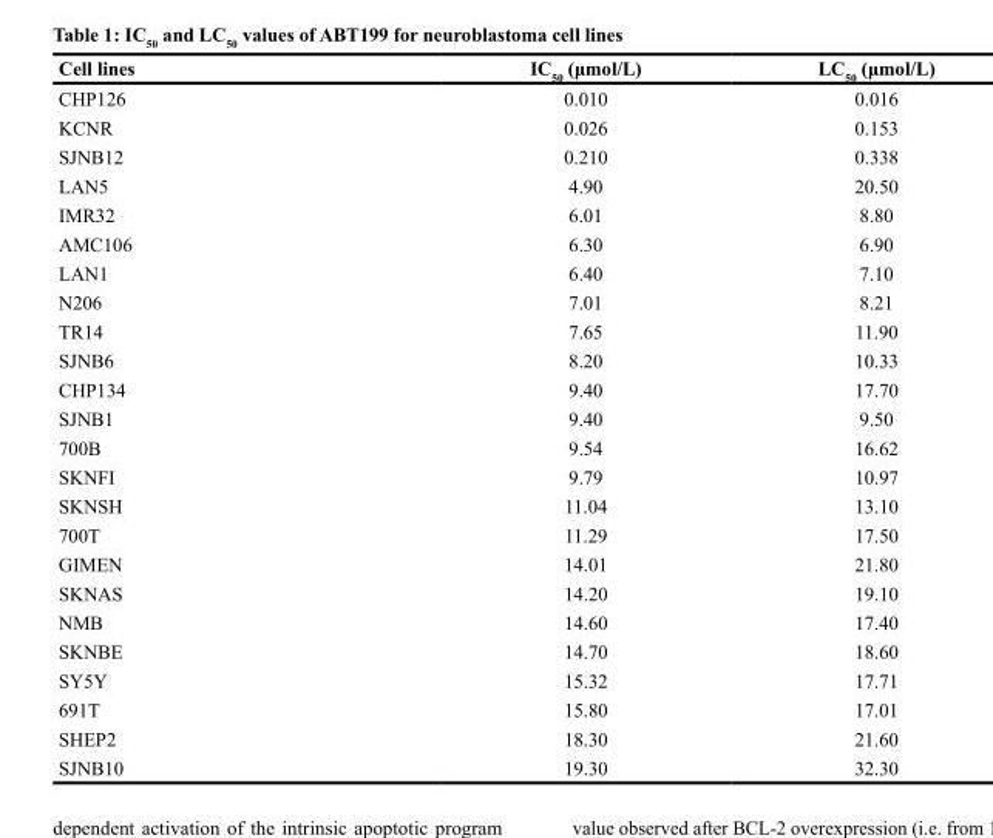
<table><thead><tr><td>Cell lines</td><td>IC<sub>50</sub> (μmol/L)</td><td>LC<sub>50</sub> (μmol/L)</td></tr></thead><tbody><tr><td>CHP126</td><td>0.010</td><td>0.016</td></tr><tr><td>KCNR</td><td>0.026</td><td>0.153</td></tr><tr><td>SJNB12</td><td>0.210</td><td>0.338</td></tr><tr><td>LAN5</td><td>4.90</td><td>20.50</td></tr><tr><td>IMR32</td><td>6.01</td><td>8.80</td></tr><tr><td>AMC106</td><td>6.30</td><td>6.90</td></tr><tr><td>LAN1</td><td>6.40</td><td>7.10</td></tr><tr><td>N206</td><td>7.01</td><td>8.21</td></tr><tr><td>TR14</td><td>7.65</td><td>11.90</td></tr><tr><td>SJNB6</td><td>8.20</td><td>10.33</td></tr><tr><td>CHP134</td><td>9.40</td><td>17.70</td></tr><tr><td>SJNB1</td><td>9.40</td><td>9.50</td></tr><tr><td>700B</td><td>9.54</td><td>16.62</td></tr><tr><td>SKNFI</td><td>9.79</td><td>10.97</td></tr><tr><td>SKNSH</td><td>11.04</td><td>13.10</td></tr><tr><td>700T</td><td>11.29</td><td>17.50</td></tr><tr><td>GIMEN</td><td>14.01</td><td>21.80</td></tr><tr><td>SKNAS</td><td>14.20</td><td>19.10</td></tr><tr><td>NMB</td><td>14.60</td><td>17.40</td></tr><tr><td>SKNBE</td><td>14.70</td><td>18.60</td></tr><tr><td>SY5Y</td><td>15.32</td><td>17.71</td></tr><tr><td>691T</td><td>15.80</td><td>17.01</td></tr><tr><td>SHEP2</td><td>18.30</td><td>21.60</td></tr><tr><td>SJNB10</td><td>19.30</td><td>32.30</td></tr></tbody></table>